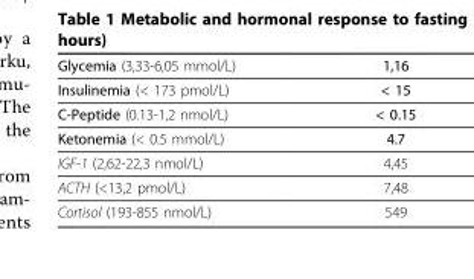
<table><thead><tr><td>Glycemia (3,33-6,05 mmol/L)</td><td>1,16</td></tr></thead><tbody><tr><td>Insulinemia (&lt; 173 pmol/L)</td><td>&lt; 15</td></tr><tr><td>C-Peptide (0.13-1,2 nmol/L)</td><td>&lt; 0.15</td></tr><tr><td>Ketonemia (&lt; 0.5 mmol/L)</td><td>4.7</td></tr><tr><td>IGF-1 (2,62-22,3 nmol/L)</td><td>4,45</td></tr><tr><td>ACTH (&lt;13,2 pmol/L)</td><td>7,48</td></tr><tr><td>Cortisol (193-855 nmol/L)</td><td>549</td></tr></tbody></table>